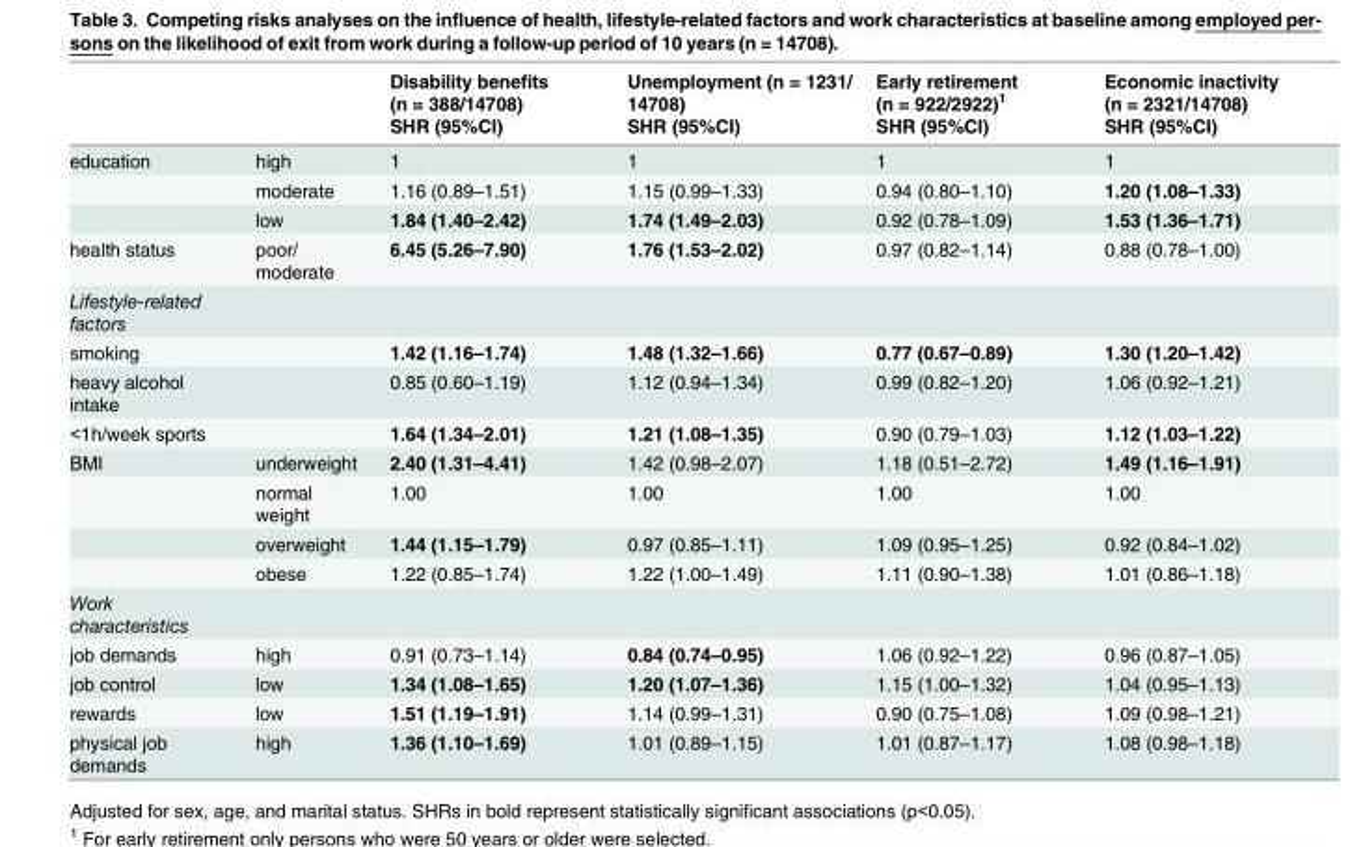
<table><thead><tr><td rowspan="2"></td><td rowspan="2"></td><td rowspan="2">Disability benefits (n = 388/14708) SHR (95%CI)</td><td rowspan="2">Unemployment (n = 1231/ 14708) SHR (95%CI)</td><td rowspan="2">Early retirement (n = 922/2922)<sup>1</sup> SHR (95%CI)</td><td rowspan="2">Economic inactivity (n = 2321/14708) SHR (95%CI)</td></tr><tr></tr></thead><tbody><tr><td rowspan="3">education</td><td>high</td><td>1</td><td>1</td><td>1</td><td>1</td></tr><tr><td>moderate</td><td>1.16 (0.89–1.51)</td><td>1.15 (0.99–1.33)</td><td>0.94 (0.80–1.10)</td><td>1.20 (1.08–1.33)</td></tr><tr><td>low</td><td>1.84 (1.40–2.42)</td><td>1.74 (1.49–2.03)</td><td>0.92 (0.78–1.09)</td><td>1.53 (1.36–1.71)</td></tr><tr><td>health status</td><td>poor/ moderate</td><td>6.45 (5.26–7.90)</td><td>1.76 (1.53–2.02)</td><td>0.97 (0.82–1.14)</td><td>0.88 (0.78–1.00)</td></tr><tr><td colspan="6">Lifestyle-related factors</td></tr><tr><td>smoking</td><td></td><td>1.42 (1.16–1.74)</td><td>1.48 (1.32–1.66)</td><td>0.77 (0.67–0.89)</td><td>1.30 (1.20–1.42)</td></tr><tr><td>heavy alcohol intake</td><td></td><td>0.85 (0.60–1.19)</td><td>1.12 (0.94–1.34)</td><td>0.99 (0.82–1.20)</td><td>1.06 (0.92–1.21)</td></tr><tr><td>&lt;1h/week sports</td><td></td><td>1.64 (1.34–2.01)</td><td>1.21 (1.08–1.35)</td><td>0.90 (0.79–1.03)</td><td>1.12 (1.03–1.22)</td></tr><tr><td rowspan="4">BMI</td><td>underweight</td><td>2.40 (1.31–4.41)</td><td>1.42 (0.98–2.07)</td><td>1.18 (0.51–2.72)</td><td>1.49 (1.16–1.91)</td></tr><tr><td>normal weight</td><td>1.00</td><td>1.00</td><td>1.00</td><td>1.00</td></tr><tr><td>overweight</td><td>1.44 (1.15–1.79)</td><td>0.97 (0.85–1.11)</td><td>1.09 (0.95–1.25)</td><td>0.92 (0.84–1.02)</td></tr><tr><td>obese</td><td>1.22 (0.85–1.74)</td><td>1.22 (1.00–1.49)</td><td>1.11 (0.90–1.38)</td><td>1.01 (0.86–1.18)</td></tr><tr><td colspan="6">Work characteristics</td></tr><tr><td>job demands</td><td>high</td><td>0.91 (0.73–1.14)</td><td>0.84 (0.74–0.95)</td><td>1.06 (0.92–1.22)</td><td>0.96 (0.87–1.05)</td></tr><tr><td>job control</td><td>low</td><td>1.34 (1.08–1.65)</td><td>1.20 (1.07–1.36)</td><td>1.15 (1.00–1.32)</td><td>1.04 (0.95–1.13)</td></tr><tr><td>rewards</td><td>low</td><td>1.51 (1.19–1.91)</td><td>1.14 (0.99–1.31)</td><td>0.90 (0.75–1.08)</td><td>1.09 (0.98–1.21)</td></tr><tr><td>physical job demands</td><td>high</td><td>1.36 (1.10–1.69)</td><td>1.01 (0.89–1.15)</td><td>1.01 (0.87–1.17)</td><td>1.08 (0.98–1.18)</td></tr></tbody></table>